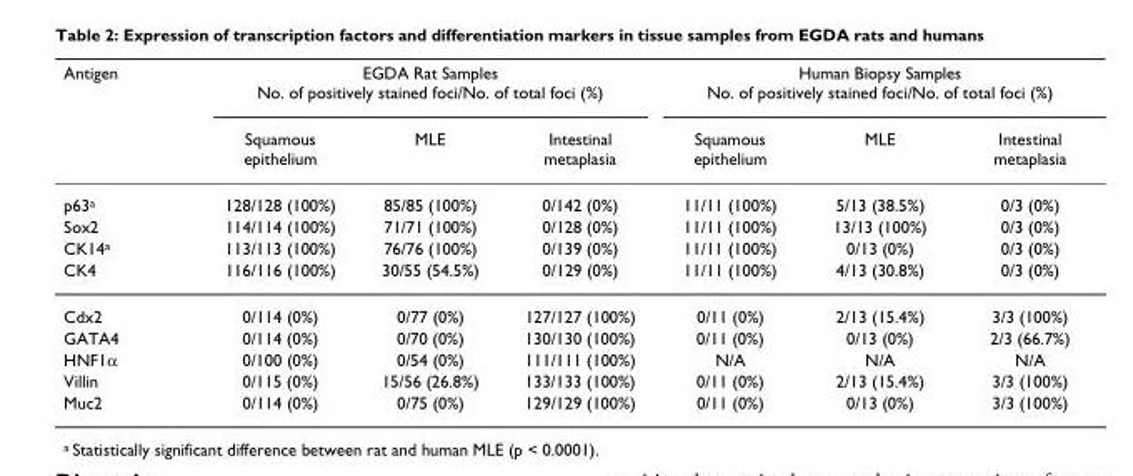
<table><thead><tr><td rowspan="2">Antigen</td><td colspan="3">EGDA Rat Samples No. of positively stained foci/No. of total foci (%)</td><td colspan="3">Human Biopsy Samples No. of positively stained foci/No. of total foci (%)</td></tr><tr><td>Squamous epithelium</td><td>MLE</td><td>Intestinal metaplasia</td><td>Squamous epithelium</td><td>MLE</td><td>Intestinal metaplasia</td></tr></thead><tbody><tr><td>p63<sup>a</sup></td><td>128/128 (100%)</td><td>85/85 (100%)</td><td>0/142 (0%)</td><td>11/11 (100%)</td><td>5/13 (38.5%)</td><td>0/3 (0%)</td></tr><tr><td>Sox2</td><td>114/114 (100%)</td><td>71/71 (100%)</td><td>0/128 (0%)</td><td>11/11 (100%)</td><td>13/13 (100%)</td><td>0/3 (0%)</td></tr><tr><td>CK14<sup>a</sup></td><td>113/113 (100%)</td><td>76/76 (100%)</td><td>0/139 (0%)</td><td>11/11 (100%)</td><td>0/13 (0%)</td><td>0/3 (0%)</td></tr><tr><td>CK4</td><td>116/116 (100%)</td><td>30/55 (54.5%)</td><td>0/129 (0%)</td><td>11/11 (100%)</td><td>4/13 (30.8%)</td><td>0/3 (0%)</td></tr><tr><td>Cdx2</td><td>0/114 (0%)</td><td>0/77 (0%)</td><td>127/127 (100%)</td><td>0/11 (0%)</td><td>2/13 (15.4%)</td><td>3/3 (100%)</td></tr><tr><td>GATA4</td><td>0/114 (0%)</td><td>0/70 (0%)</td><td>130/130 (100%)</td><td>0/11 (0%)</td><td>0/13 (0%)</td><td>2/3 (66.7%)</td></tr><tr><td>HNF1α</td><td>0/100 (0%)</td><td>0/54 (0%)</td><td>111/111 (100%)</td><td>N/A</td><td>N/A</td><td>N/A</td></tr><tr><td>Villin</td><td>0/115 (0%)</td><td>15/56 (26.8%)</td><td>133/133 (100%)</td><td>0/11 (0%)</td><td>2/13 (15.4%)</td><td>3/3 (100%)</td></tr><tr><td>Muc2</td><td>0/114 (0%)</td><td>0/75 (0%)</td><td>129/129 (100%)</td><td>0/11 (0%)</td><td>0/13 (0%)</td><td>3/3 (100%)</td></tr></tbody></table>